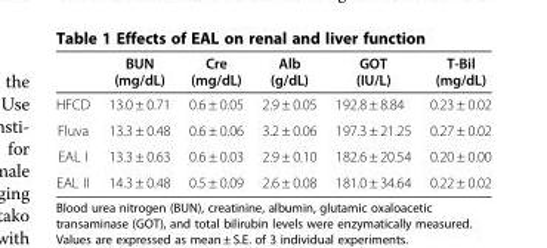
<table><thead><tr><td></td><td>BUN (mg/dL)</td><td>Cre (mg/dL)</td><td>Alb (g/dL)</td><td>GOT (IU/L)</td><td>T-Bil (mg/dL)</td></tr></thead><tbody><tr><td>HFCD</td><td>13.0 ± 0.71</td><td>0.6 ± 0.05</td><td>2.9 ± 0.05</td><td>192.8 ± 8.84</td><td>0.23 ± 0.02</td></tr><tr><td>Fluva</td><td>13.3 ± 0.48</td><td>0.6 ± 0.06</td><td>3.2 ± 0.06</td><td>197.3 ± 21.25</td><td>0.27 ± 0.02</td></tr><tr><td>EAL I</td><td>13.3 ± 0.63</td><td>0.6 ± 0.03</td><td>2.9 ± 0.10</td><td>182.6 ± 20.54</td><td>0.20 ± 0.00</td></tr><tr><td>EAL II</td><td>14.3 ± 0.48</td><td>0.5 ± 0.09</td><td>2.6 ± 0.08</td><td>181.0 ± 34.64</td><td>0.22 ± 0.02</td></tr></tbody></table>